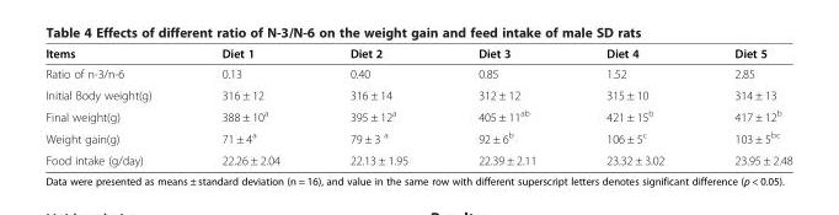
<table><thead><tr><td>Items</td><td>Diet 1</td><td>Diet 2</td><td>Diet 3</td><td>Diet 4</td><td>Diet 5</td></tr></thead><tbody><tr><td>Ratio of n-3/n-6</td><td>0.13</td><td>0.40</td><td>0.85</td><td>1.52</td><td>2.85</td></tr><tr><td>Initial Body weight(g)</td><td>316 ± 12</td><td>316 ± 14</td><td>312 ± 12</td><td>315 ± 10</td><td>314 ± 13</td></tr><tr><td>Final weight(g)</td><td>388 ± 10<sup>a</sup></td><td>395 ± 12<sup>a</sup></td><td>405 ± 11<sup>ab</sup></td><td>421 ± 15<sup>b</sup></td><td>417 ± 12<sup>b</sup></td></tr><tr><td>Weight gain(g)</td><td>71 ± 4<sup>a</sup></td><td>79 ± 3 <sup>a</sup></td><td>92 ± 6<sup>b</sup></td><td>106 ± 5<sup>c</sup></td><td>103 ± 5<sup>bc</sup></td></tr><tr><td>Food intake (g/day)</td><td>22.26 ± 2.04</td><td>22.13 ± 1.95</td><td>22.39 ± 2.11</td><td>23.32 ± 3.02</td><td>23.95 ± 2.48</td></tr></tbody></table>